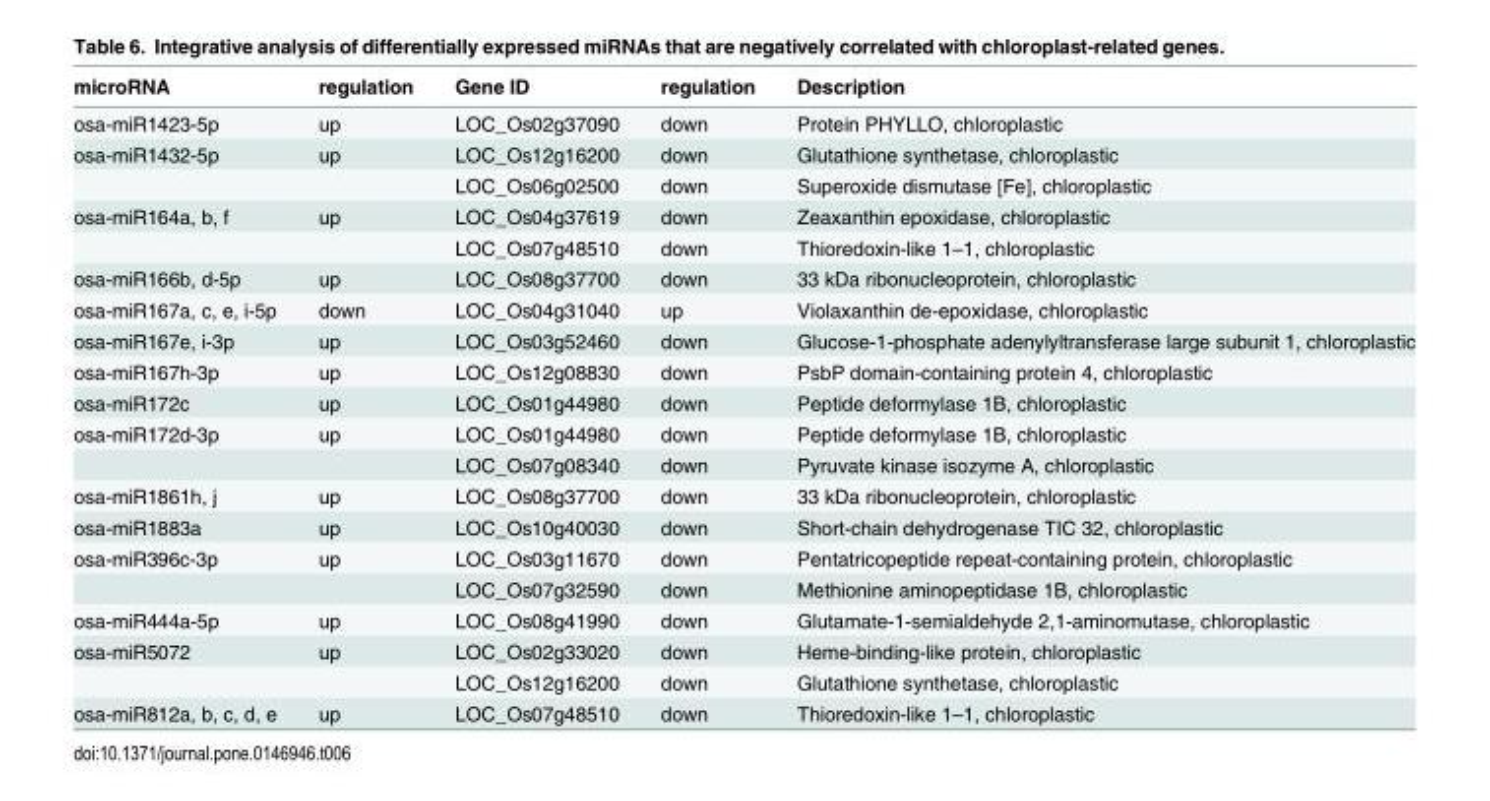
<table><thead><tr><td>microRNA</td><td>regulation</td><td>Gene ID</td><td>regulation</td><td>Description</td></tr></thead><tbody><tr><td>osa-miR1423-5p</td><td>up</td><td>LOC_Os02g37090</td><td>down</td><td>Protein PHYLLO, chloroplastic</td></tr><tr><td rowspan="2">osa-miR1432-5p</td><td>up</td><td>LOC_Os12g16200</td><td>down</td><td>Glutathione synthetase, chloroplastic</td></tr><tr><td></td><td>LOC_Os06g02500</td><td>down</td><td>Superoxide dismutase [Fe], chloroplastic</td></tr><tr><td rowspan="2">osa-miR164a, b, f</td><td>up</td><td>LOC_Os04g37619</td><td>down</td><td>Zeaxanthin epoxidase, chloroplastic</td></tr><tr><td></td><td>LOC_Os07g48510</td><td>down</td><td>Thioredoxin-like 1–1, chloroplastic</td></tr><tr><td>osa-miR166b, d-5p</td><td>up</td><td>LOC_Os08g37700</td><td>down</td><td>33 kDa ribonucleoprotein, chloroplastic</td></tr><tr><td>osa-miR167a, c, e, i-5p</td><td>down</td><td>LOC_Os04g31040</td><td>up</td><td>Violaxanthin de-epoxidase, chloroplastic</td></tr><tr><td>osa-miR167e, i-3p</td><td>up</td><td>LOC_Os03g52460</td><td>down</td><td>Glucose-1-phosphate adenylyltransferase large subunit 1, chloroplastic</td></tr><tr><td>osa-miR167h-3p</td><td>up</td><td>LOC_Os12g08830</td><td>down</td><td>PsbP domain-containing protein 4, chloroplastic</td></tr><tr><td>osa-miR172c</td><td>up</td><td>LOC_Os01g44980</td><td>down</td><td>Peptide deformylase 1B, chloroplastic</td></tr><tr><td rowspan="2">osa-miR172d-3p</td><td>up</td><td>LOC_Os01g44980</td><td>down</td><td>Peptide deformylase 1B, chloroplastic</td></tr><tr><td></td><td>LOC_Os07g08340</td><td>down</td><td>Pyruvate kinase isozyme A, chloroplastic</td></tr><tr><td>osa-miR1861h, j</td><td>up</td><td>LOC_Os08g37700</td><td>down</td><td>33 kDa ribonucleoprotein, chloroplastic</td></tr><tr><td>osa-miR1883a</td><td>up</td><td>LOC_Os10g40030</td><td>down</td><td>Short-chain dehydrogenase TIC 32, chloroplastic</td></tr><tr><td rowspan="2">osa-miR396c-3p</td><td>up</td><td>LOC_Os03g11670</td><td>down</td><td>Pentatricopeptide repeat-containing protein, chloroplastic</td></tr><tr><td></td><td>LOC_Os07g32590</td><td>down</td><td>Methionine aminopeptidase 1B, chloroplastic</td></tr><tr><td>osa-miR444a-5p</td><td>up</td><td>LOC_Os08g41990</td><td>down</td><td>Glutamate-1-semialdehyde 2,1-aminomutase, chloroplastic</td></tr><tr><td rowspan="2">osa-miR5072</td><td>up</td><td>LOC_Os02g33020</td><td>down</td><td>Heme-binding-like protein, chloroplastic</td></tr><tr><td></td><td>LOC_Os12g16200</td><td>down</td><td>Glutathione synthetase, chloroplastic</td></tr><tr><td>osa-miR812a, b, c, d, e</td><td>up</td><td>LOC_Os07g48510</td><td>down</td><td>Thioredoxin-like 1–1, chloroplastic</td></tr></tbody></table>